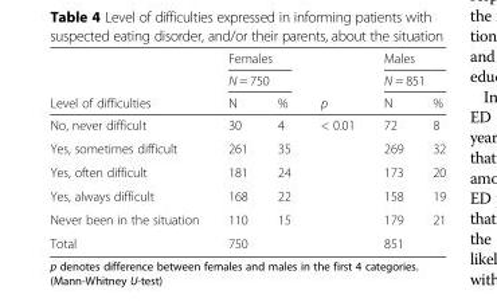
<table><thead><tr><td rowspan="3">Level of difficulties</td><td rowspan="2" colspan="2">Females N = 750</td><td rowspan="3">p</td><td rowspan="2" colspan="2">Males N = 851</td></tr><tr></tr><tr><td>N</td><td>%</td><td>N</td><td>%</td></tr></thead><tbody><tr><td>No, never difficult</td><td>30</td><td>4</td><td rowspan="4">&lt; 0.01</td><td>72</td><td>8</td></tr><tr><td>Yes, sometimes difficult</td><td>261</td><td>35</td><td>269</td><td>32</td></tr><tr><td>Yes, often difficult</td><td>181</td><td>24</td><td>173</td><td>20</td></tr><tr><td>Yes, always difficult</td><td>168</td><td>22</td><td>158</td><td>19</td></tr><tr><td>Never been in the situation</td><td>110</td><td>15</td><td></td><td>179</td><td>21</td></tr><tr><td>Total</td><td>750</td><td></td><td></td><td>851</td><td></td></tr></tbody></table>